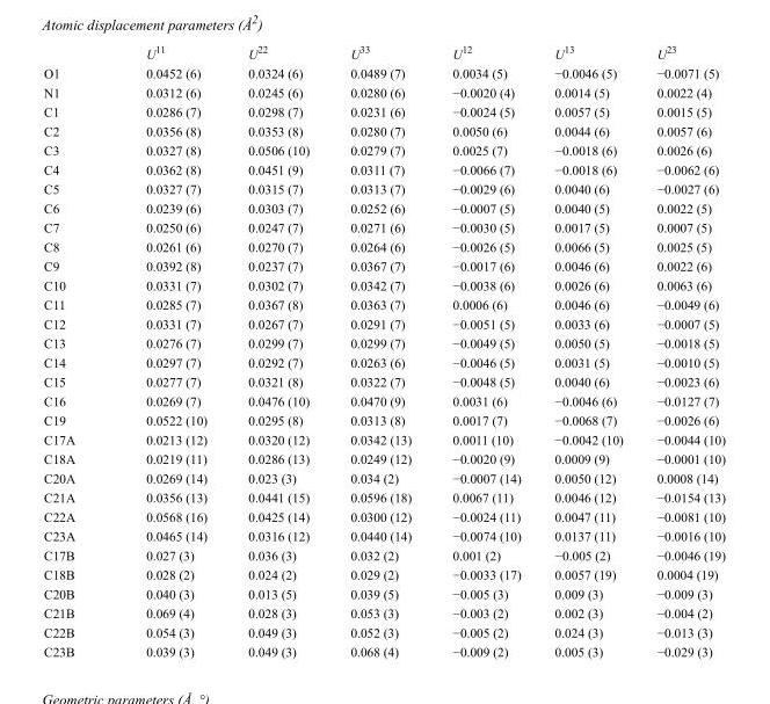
<table><thead><tr><td></td><td>U<sup>11</sup></td><td>U<sup>22</sup></td><td>U<sup>33</sup></td><td>U<sup>12</sup></td><td>U<sup>13</sup></td><td>U<sup>23</sup></td></tr></thead><tbody><tr><td>O1</td><td>0.0452 (6)</td><td>0.0324 (6)</td><td>0.0489 (7)</td><td>0.0034 (5)</td><td>−0.0046 (5)</td><td>−0.0071 (5)</td></tr><tr><td>N1</td><td>0.0312 (6)</td><td>0.0245 (6)</td><td>0.0280 (6)</td><td>−0.0020 (4)</td><td>0.0014 (5)</td><td>0.0022 (4)</td></tr><tr><td>C1</td><td>0.0286 (7)</td><td>0.0298 (7)</td><td>0.0231 (6)</td><td>−0.0024 (5)</td><td>0.0057 (5)</td><td>0.0015 (5)</td></tr><tr><td>C2</td><td>0.0356 (8)</td><td>0.0353 (8)</td><td>0.0280 (7)</td><td>0.0050 (6)</td><td>0.0044 (6)</td><td>0.0057 (6)</td></tr><tr><td>C3</td><td>0.0327 (8)</td><td>0.0506 (10)</td><td>0.0279 (7)</td><td>0.0025 (7)</td><td>−0.0018 (6)</td><td>0.0026 (6)</td></tr><tr><td>C4</td><td>0.0362 (8)</td><td>0.0451 (9)</td><td>0.0311 (7)</td><td>−0.0066 (7)</td><td>−0.0018 (6)</td><td>−0.0062 (6)</td></tr><tr><td>C5</td><td>0.0327 (7)</td><td>0.0315 (7)</td><td>0.0313 (7)</td><td>−0.0029 (6)</td><td>0.0040 (6)</td><td>−0.0027 (6)</td></tr><tr><td>C6</td><td>0.0239 (6)</td><td>0.0303 (7)</td><td>0.0252 (6)</td><td>−0.0007 (5)</td><td>0.0040 (5)</td><td>0.0022 (5)</td></tr><tr><td>C7</td><td>0.0250 (6)</td><td>0.0247 (7)</td><td>0.0271 (6)</td><td>−0.0030 (5)</td><td>0.0017 (5)</td><td>0.0007 (5)</td></tr><tr><td>C8</td><td>0.0261 (6)</td><td>0.0270 (7)</td><td>0.0264 (6)</td><td>−0.0026 (5)</td><td>0.0066 (5)</td><td>0.0025 (5)</td></tr><tr><td>C9</td><td>0.0392 (8)</td><td>0.0237 (7)</td><td>0.0367 (7)</td><td>−0.0017 (6)</td><td>0.0046 (6)</td><td>0.0022 (6)</td></tr><tr><td>C10</td><td>0.0331 (7)</td><td>0.0302 (7)</td><td>0.0342 (7)</td><td>−0.0038 (6)</td><td>0.0026 (6)</td><td>0.0063 (6)</td></tr><tr><td>C11</td><td>0.0285 (7)</td><td>0.0367 (8)</td><td>0.0363 (7)</td><td>0.0006 (6)</td><td>0.0046 (6)</td><td>−0.0049 (6)</td></tr><tr><td>C12</td><td>0.0331 (7)</td><td>0.0267 (7)</td><td>0.0291 (7)</td><td>−0.0051 (5)</td><td>0.0033 (6)</td><td>−0.0007 (5)</td></tr><tr><td>C13</td><td>0.0276 (7)</td><td>0.0299 (7)</td><td>0.0299 (7)</td><td>−0.0049 (5)</td><td>0.0050 (5)</td><td>−0.0018 (5)</td></tr><tr><td>C14</td><td>0.0297 (7)</td><td>0.0292 (7)</td><td>0.0263 (6)</td><td>−0.0046 (5)</td><td>0.0031 (5)</td><td>−0.0010 (5)</td></tr><tr><td>C15</td><td>0.0277 (7)</td><td>0.0321 (8)</td><td>0.0322 (7)</td><td>−0.0048 (5)</td><td>0.0040 (6)</td><td>−0.0023 (6)</td></tr><tr><td>C16</td><td>0.0269 (7)</td><td>0.0476 (10)</td><td>0.0470 (9)</td><td>0.0031 (6)</td><td>−0.0046 (6)</td><td>−0.0127 (7)</td></tr><tr><td>C19</td><td>0.0522 (10)</td><td>0.0295 (8)</td><td>0.0313 (8)</td><td>0.0017 (7)</td><td>−0.0068 (7)</td><td>−0.0026 (6)</td></tr><tr><td>C17A</td><td>0.0213 (12)</td><td>0.0320 (12)</td><td>0.0342 (13)</td><td>0.0011 (10)</td><td>−0.0042 (10)</td><td>−0.0044 (10)</td></tr><tr><td>C18A</td><td>0.0219 (11)</td><td>0.0286 (13)</td><td>0.0249 (12)</td><td>−0.0020 (9)</td><td>0.0009 (9)</td><td>−0.0001 (10)</td></tr><tr><td>C20A</td><td>0.0269 (14)</td><td>0.023 (3)</td><td>0.034 (2)</td><td>−0.0007 (14)</td><td>0.0050 (12)</td><td>0.0008 (14)</td></tr><tr><td>C21A</td><td>0.0356 (13)</td><td>0.0441 (15)</td><td>0.0596 (18)</td><td>0.0067 (11)</td><td>0.0046 (12)</td><td>−0.0154 (13)</td></tr><tr><td>C22A</td><td>0.0568 (16)</td><td>0.0425 (14)</td><td>0.0300 (12)</td><td>−0.0024 (11)</td><td>0.0047 (11)</td><td>−0.0081 (10)</td></tr><tr><td>C23A</td><td>0.0465 (14)</td><td>0.0316 (12)</td><td>0.0440 (14)</td><td>−0.0074 (10)</td><td>0.0137 (11)</td><td>−0.0016 (10)</td></tr><tr><td>C17B</td><td>0.027 (3)</td><td>0.036 (3)</td><td>0.032 (2)</td><td>0.001 (2)</td><td>−0.005 (2)</td><td>−0.0046 (19)</td></tr><tr><td>C18B</td><td>0.028 (2)</td><td>0.024 (2)</td><td>0.029 (2)</td><td>−0.0033 (17)</td><td>0.0057 (19)</td><td>0.0004 (19)</td></tr><tr><td>C20B</td><td>0.040 (3)</td><td>0.013 (5)</td><td>0.039 (5)</td><td>−0.005 (3)</td><td>0.009 (3)</td><td>−0.009 (3)</td></tr><tr><td>C21B</td><td>0.069 (4)</td><td>0.028 (3)</td><td>0.053 (3)</td><td>−0.003 (2)</td><td>0.002 (3)</td><td>−0.004 (2)</td></tr><tr><td>C22B</td><td>0.054 (3)</td><td>0.049 (3)</td><td>0.052 (3)</td><td>−0.005 (2)</td><td>0.024 (3)</td><td>−0.013 (3)</td></tr><tr><td>C23B</td><td>0.039 (3)</td><td>0.049 (3)</td><td>0.068 (4)</td><td>−0.009 (2)</td><td>0.005 (3)</td><td>−0.029 (3)</td></tr></tbody></table>